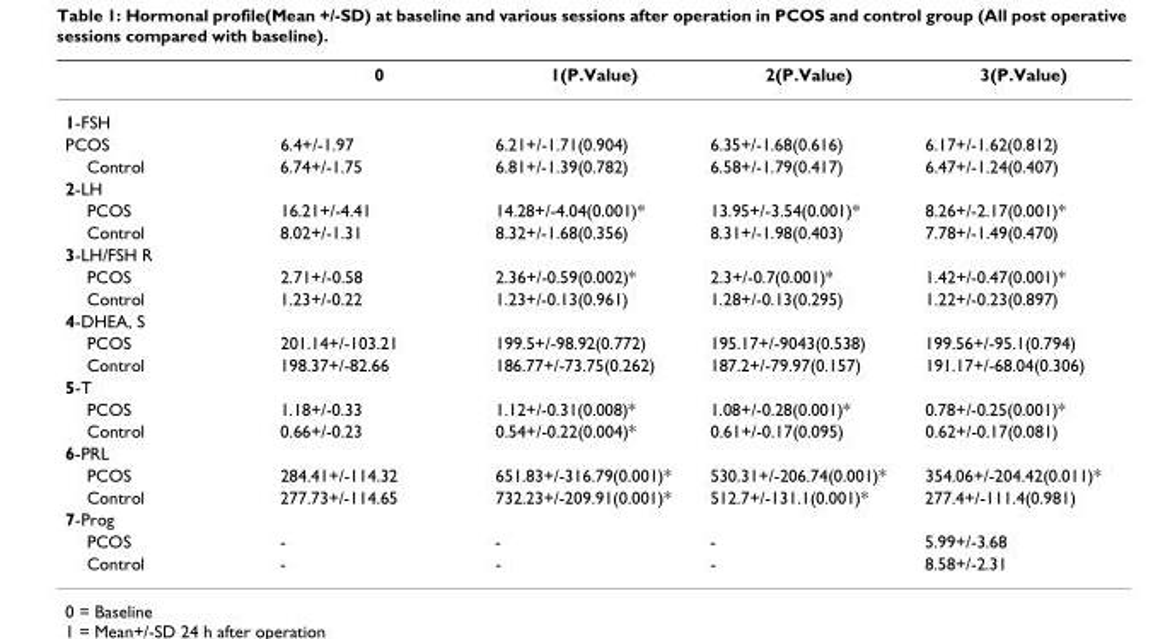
<table><thead><tr><td></td><td>0</td><td>1(P.Value)</td><td>2(P.Value)</td><td>3(P.Value)</td></tr></thead><tbody><tr><td colspan="5">1-FSH</td></tr><tr><td>PCOS</td><td>6.4+/-1.97</td><td>6.21+/-1.71(0.904)</td><td>6.35+/-1.68(0.616)</td><td>6.17+/-1.62(0.812)</td></tr><tr><td>Control</td><td>6.74+/-1.75</td><td>6.81+/-1.39(0.782)</td><td>6.58+/-1.79(0.417)</td><td>6.47+/-1.24(0.407)</td></tr><tr><td colspan="5">2-LH</td></tr><tr><td>PCOS</td><td>16.21+/-4.41</td><td>14.28+/-4.04(0.001)*</td><td>13.95+/-3.54(0.001)*</td><td>8.26+/-2.17(0.001)*</td></tr><tr><td>Control</td><td>8.02+/-1.31</td><td>8.32+/-1.68(0.356)</td><td>8.31+/-1.98(0.403)</td><td>7.78+/-1.49(0.470)</td></tr><tr><td colspan="5">3-LH/FSH R</td></tr><tr><td>PCOS</td><td>2.71+/-0.58</td><td>2.36+/-0.59(0.002)*</td><td>2.3+/-0.7(0.001)*</td><td>1.42+/-0.47(0.001)*</td></tr><tr><td>Control</td><td>1.23+/-0.22</td><td>1.23+/-0.13(0.961)</td><td>1.28+/-0.13(0.295)</td><td>1.22+/-0.23(0.897)</td></tr><tr><td colspan="5">4-DHEA, S</td></tr><tr><td>PCOS</td><td>201.14+/-103.21</td><td>199.5+/-98.92(0.772)</td><td>195.17+/-9043(0.538)</td><td>199.56+/-95.1(0.794)</td></tr><tr><td>Control</td><td>198.37+/-82.66</td><td>186.77+/-73.75(0.262)</td><td>187.2+/-79.97(0.157)</td><td>191.17+/-68.04(0.306)</td></tr><tr><td colspan="5">5-T</td></tr><tr><td>PCOS</td><td>1.18+/-0.33</td><td>1.12+/-0.31(0.008)*</td><td>1.08+/-0.28(0.001)*</td><td>0.78+/-0.25(0.001)*</td></tr><tr><td>Control</td><td>0.66+/-0.23</td><td>0.54+/-0.22(0.004)*</td><td>0.61+/-0.17(0.095)</td><td>0.62+/-0.17(0.081)</td></tr><tr><td colspan="5">6-PRL</td></tr><tr><td>PCOS</td><td>284.41+/-114.32</td><td>651.83+/-316.79(0.001)*</td><td>530.31+/-206.74(0.001)*</td><td>354.06+/-204.42(0.011)*</td></tr><tr><td>Control</td><td>277.73+/-114.65</td><td>732.23+/-209.91(0.001)*</td><td>512.7+/-131.1(0.001)*</td><td>277.4+/-111.4(0.981)</td></tr><tr><td colspan="5">7-Prog</td></tr><tr><td>PCOS</td><td>-</td><td>-</td><td>-</td><td>5.99+/-3.68</td></tr><tr><td>Control</td><td>-</td><td>-</td><td>-</td><td>8.58+/-2.31</td></tr></tbody></table>